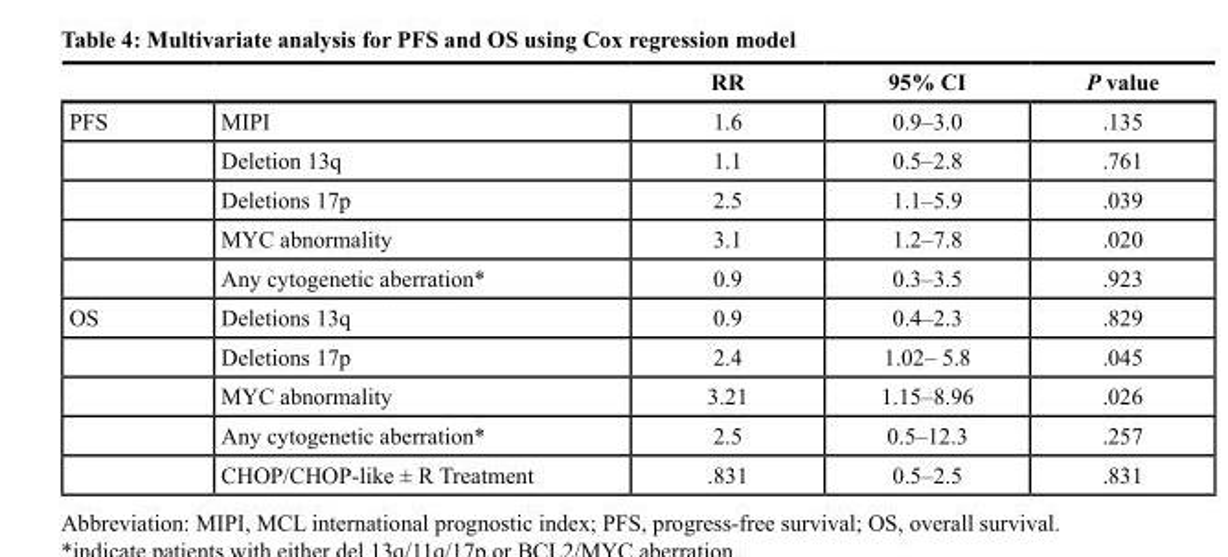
<table><thead><tr><td></td><td></td><td>RR</td><td>95% CI</td><td>P value</td></tr></thead><tbody><tr><td rowspan="5">PFS</td><td>MIPI</td><td>1.6</td><td>0.9–3.0</td><td>.135</td></tr><tr><td>Deletion 13q</td><td>1.1</td><td>0.5–2.8</td><td>.761</td></tr><tr><td>Deletions 17p</td><td>2.5</td><td>1.1–5.9</td><td>.039</td></tr><tr><td>MYC abnormality</td><td>3.1</td><td>1.2–7.8</td><td>.020</td></tr><tr><td>Any cytogenetic aberration*</td><td>0.9</td><td>0.3–3.5</td><td>.923</td></tr><tr><td rowspan="5">OS</td><td>Deletions 13q</td><td>0.9</td><td>0.4–2.3</td><td>.829</td></tr><tr><td>Deletions 17p</td><td>2.4</td><td>1.02– 5.8</td><td>.045</td></tr><tr><td>MYC abnormality</td><td>3.21</td><td>1.15–8.96</td><td>.026</td></tr><tr><td>Any cytogenetic aberration*</td><td>2.5</td><td>0.5–12.3</td><td>.257</td></tr><tr><td>CHOP/CHOP-like ± R Treatment</td><td>.831</td><td>0.5–2.5</td><td>.831</td></tr></tbody></table>